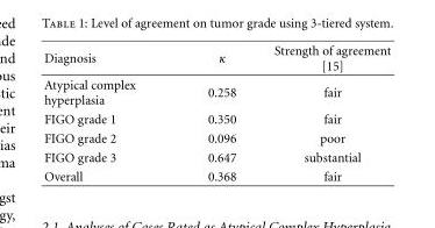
<table><thead><tr><td>Diagnosis</td><td>κ</td><td>Strength of agreement [15]</td></tr></thead><tbody><tr><td>Atypical complex hyperplasia</td><td>0.258</td><td>fair</td></tr><tr><td>FIGO grade 1</td><td>0.350</td><td>fair</td></tr><tr><td>FIGO grade 2</td><td>0.096</td><td>poor</td></tr><tr><td>FIGO grade 3</td><td>0.647</td><td>substantial</td></tr><tr><td>Overall</td><td>0.368</td><td>fair</td></tr></tbody></table>